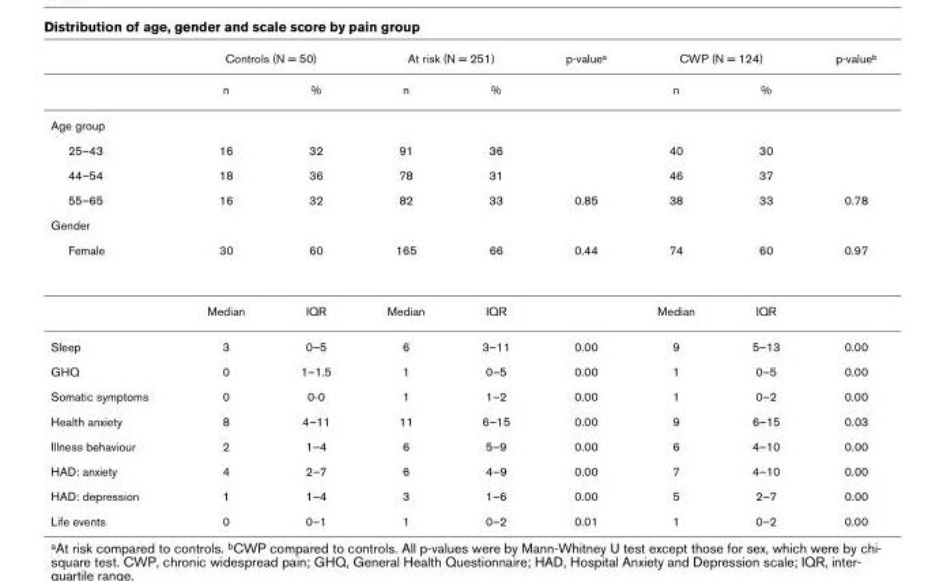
<table><thead><tr><td rowspan="2"></td><td colspan="2">Controls (N = 50)</td><td colspan="2">At risk (N = 251)</td><td rowspan="2">p-valuea</td><td colspan="2">CWP (N = 124)</td><td rowspan="2">p-valueb</td></tr><tr><td>n</td><td>%</td><td>n</td><td>%</td><td>n</td><td>%</td></tr></thead><tbody><tr><td colspan="9">Age group</td></tr><tr><td>25–43</td><td>16</td><td>32</td><td>91</td><td>36</td><td></td><td>40</td><td>30</td><td></td></tr><tr><td>44–54</td><td>18</td><td>36</td><td>78</td><td>31</td><td></td><td>46</td><td>37</td><td></td></tr><tr><td>55–65</td><td>16</td><td>32</td><td>82</td><td>33</td><td>0.85</td><td>38</td><td>33</td><td>0.78</td></tr><tr><td colspan="9">Gender</td></tr><tr><td rowspan="2">Female</td><td>30</td><td>60</td><td>165</td><td>66</td><td>0.44</td><td>74</td><td>60</td><td>0.97</td></tr><tr><td>Median</td><td>IQR</td><td>Median</td><td>IQR</td><td></td><td>Median</td><td>IQR</td><td></td></tr><tr><td>Sleep</td><td>3</td><td>0–5</td><td>6</td><td>3–11</td><td>0.00</td><td>9</td><td>5–13</td><td>0.00</td></tr><tr><td>GHQ</td><td>0</td><td>1–1.5</td><td>1</td><td>0–5</td><td>0.00</td><td>1</td><td>0–5</td><td>0.00</td></tr><tr><td>Somatic symptoms</td><td>0</td><td>0-0</td><td>1</td><td>1–2</td><td>0.00</td><td>1</td><td>0–2</td><td>0.00</td></tr><tr><td>Health anxiety</td><td>8</td><td>4–11</td><td>11</td><td>6–15</td><td>0.00</td><td>9</td><td>6–15</td><td>0.03</td></tr><tr><td>Illness behaviour</td><td>2</td><td>1–4</td><td>6</td><td>5–9</td><td>0.00</td><td>6</td><td>4–10</td><td>0.00</td></tr><tr><td>HAD: anxiety</td><td>4</td><td>2–7</td><td>6</td><td>4–9</td><td>0.00</td><td>7</td><td>4–10</td><td>0.00</td></tr><tr><td>HAD: depression</td><td>1</td><td>1–4</td><td>3</td><td>1–6</td><td>0.00</td><td>5</td><td>2–7</td><td>0.00</td></tr><tr><td>Life events</td><td>0</td><td>0–1</td><td>1</td><td>0–2</td><td>0.01</td><td>1</td><td>0–2</td><td>0.00</td></tr></tbody></table>